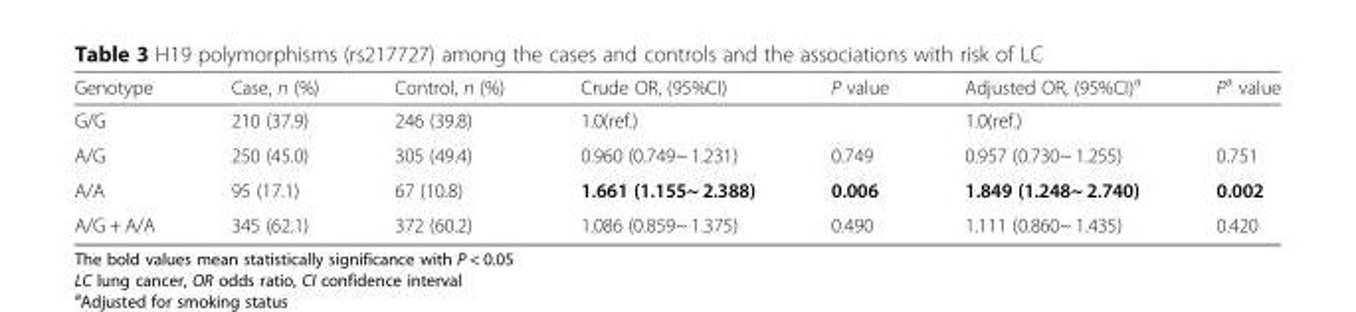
<table><thead><tr><td>Genotype</td><td>Case, n (%)</td><td>Control, n (%)</td><td>Crude OR, (95%CI)</td><td>P value</td><td>Adjusted OR, (95%CI)<sup>a</sup></td><td>P<sup>a</sup> value</td></tr></thead><tbody><tr><td>G/G</td><td>210 (37.9)</td><td>246 (39.8)</td><td>1.0(ref.)</td><td></td><td>1.0(ref.)</td><td></td></tr><tr><td>A/G</td><td>250 (45.0)</td><td>305 (49.4)</td><td>0.960 (0.749~ 1.231)</td><td>0.749</td><td>0.957 (0.730~ 1.255)</td><td>0.751</td></tr><tr><td>A/A</td><td>95 (17.1)</td><td>67 (10.8)</td><td>1.661 (1.155~ 2.388)</td><td>0.006</td><td>1.849 (1.248~ 2.740)</td><td>0.002</td></tr><tr><td>A/G + A/A</td><td>345 (62.1)</td><td>372 (60.2)</td><td>1.086 (0.859~ 1.375)</td><td>0.490</td><td>1.111 (0.860~ 1.435)</td><td>0.420</td></tr></tbody></table>